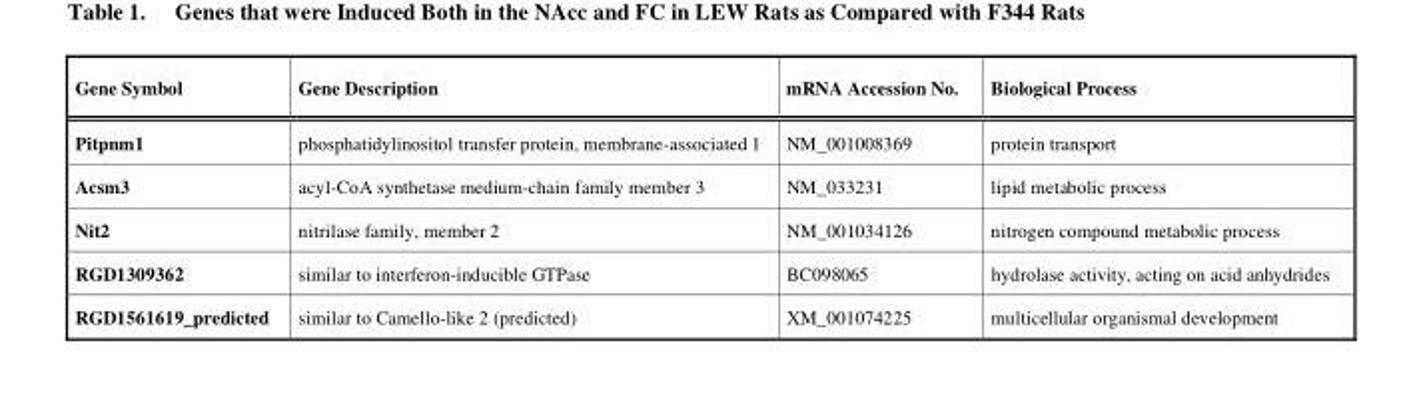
<table><thead><tr><td>Gene Symbol</td><td>Gene Description</td><td>mRNA Accession No.</td><td>Biological Process</td></tr></thead><tbody><tr><td>Pitpnm1</td><td>phosphatidylinositol transfer protein, membrane-associated 1</td><td>NM_001008369</td><td>protein transport</td></tr><tr><td>Acsm3</td><td>acyl-CoA synthetase medium-chain family member 3</td><td>NM_033231</td><td>lipid metabolic process</td></tr><tr><td>Nit2</td><td>nitrilase family, member 2</td><td>NM_001034126</td><td>nitrogen compound metabolic process</td></tr><tr><td>RGD1309362</td><td>similar to interferon-inducible GTPase</td><td>BC098065</td><td>hydrolase activity, acting on acid anhydrides</td></tr><tr><td>RGD1561619_predicted</td><td>similar to Camello-like 2 (predicted)</td><td>XM_001074225</td><td>multicellular organismal development</td></tr></tbody></table>